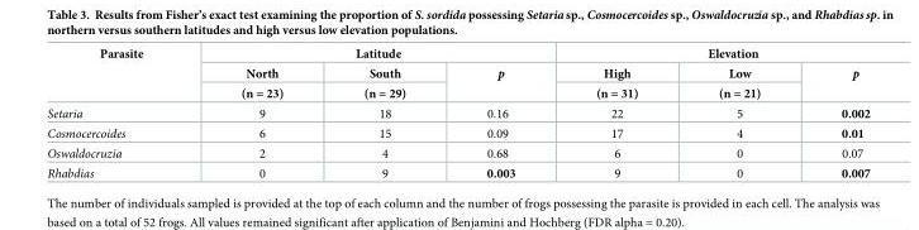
<table><thead><tr><td rowspan="3">Parasite</td><td colspan="3">Latitude</td><td colspan="3">Elevation</td></tr><tr><td rowspan="2">North (n = 23)</td><td rowspan="2">South (n = 29)</td><td rowspan="2">p</td><td rowspan="2">High (n = 31)</td><td rowspan="2">Low (n = 21)</td><td rowspan="2">p</td></tr><tr></tr></thead><tbody><tr><td>Setaria</td><td>9</td><td>18</td><td>0.16</td><td>22</td><td>5</td><td>0.002</td></tr><tr><td>Cosmocercoides</td><td>6</td><td>15</td><td>0.09</td><td>17</td><td>4</td><td>0.01</td></tr><tr><td>Oswaldocruzia</td><td>2</td><td>4</td><td>0.68</td><td>6</td><td>0</td><td>0.07</td></tr><tr><td>Rhabdias</td><td>0</td><td>9</td><td>0.003</td><td>9</td><td>0</td><td>0.007</td></tr></tbody></table>